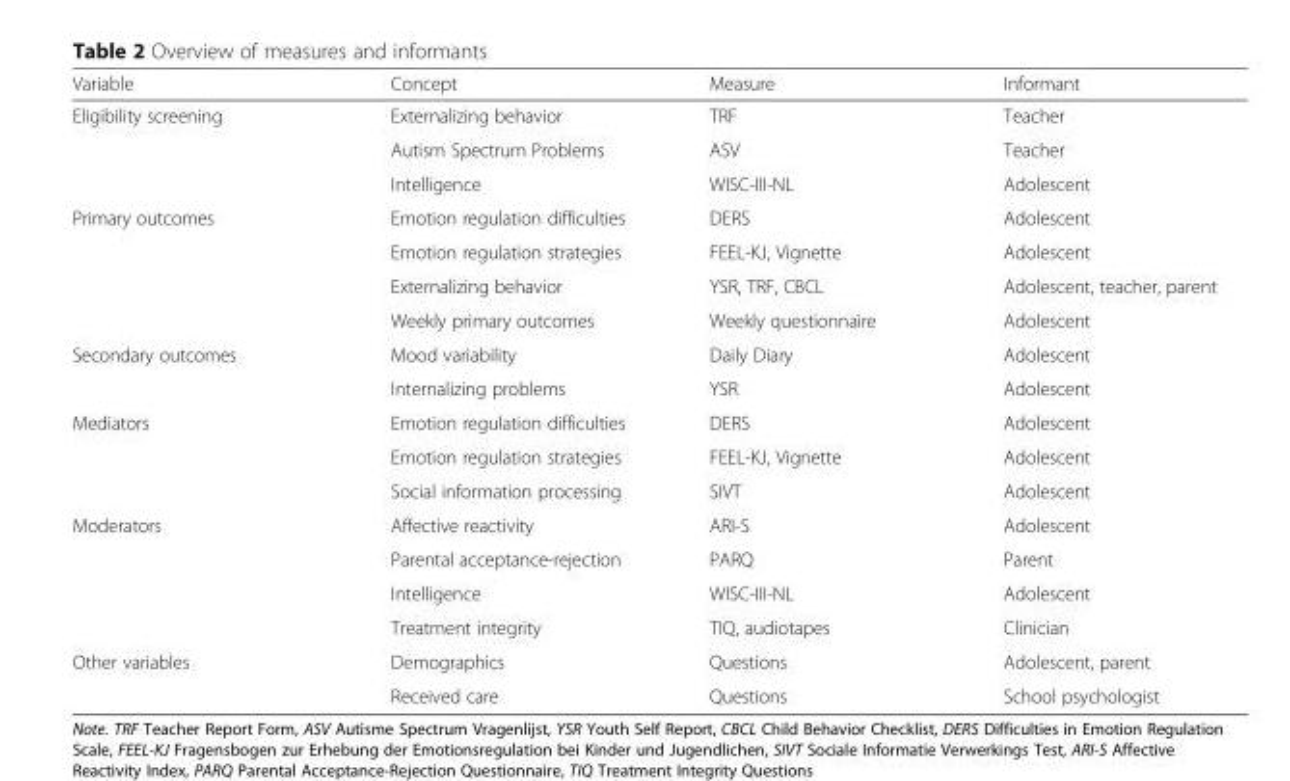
<table><thead><tr><td>Variable</td><td>Concept</td><td>Measure</td><td>Informant</td></tr></thead><tbody><tr><td rowspan="3">Eligibility screening</td><td>Externalizing behavior</td><td>TRF</td><td>Teacher</td></tr><tr><td>Autism Spectrum Problems</td><td>ASV</td><td>Teacher</td></tr><tr><td>Intelligence</td><td>WISC-III-NL</td><td>Adolescent</td></tr><tr><td rowspan="4">Primary outcomes</td><td>Emotion regulation difficulties</td><td>DERS</td><td>Adolescent</td></tr><tr><td>Emotion regulation strategies</td><td>FEEL-KJ, Vignette</td><td>Adolescent</td></tr><tr><td>Externalizing behavior</td><td>YSR, TRF, CBCL</td><td>Adolescent, teacher, parent</td></tr><tr><td>Weekly primary outcomes</td><td>Weekly questionnaire</td><td>Adolescent</td></tr><tr><td rowspan="2">Secondary outcomes</td><td>Mood variability</td><td>Daily Diary</td><td>Adolescent</td></tr><tr><td>Internalizing problems</td><td>YSR</td><td>Adolescent</td></tr><tr><td rowspan="3">Mediators</td><td>Emotion regulation difficulties</td><td>DERS</td><td>Adolescent</td></tr><tr><td>Emotion regulation strategies</td><td>FEEL-KJ, Vignette</td><td>Adolescent</td></tr><tr><td>Social information processing</td><td>SIVT</td><td>Adolescent</td></tr><tr><td rowspan="4">Moderators</td><td>Affective reactivity</td><td>ARI-S</td><td>Adolescent</td></tr><tr><td>Parental acceptance-rejection</td><td>PARQ</td><td>Parent</td></tr><tr><td>Intelligence</td><td>WISC-III-NL</td><td>Adolescent</td></tr><tr><td>Treatment integrity</td><td>TIQ, audiotapes</td><td>Clinician</td></tr><tr><td rowspan="2">Other variables</td><td>Demographics</td><td>Questions</td><td>Adolescent, parent</td></tr><tr><td>Received care</td><td>Questions</td><td>School psychologist</td></tr></tbody></table>